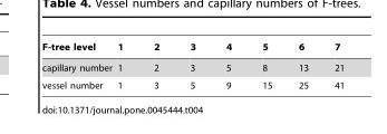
<table><thead><tr><td>F-tree level</td><td>1</td><td>2</td><td>3</td><td>4</td><td>5</td><td>6</td><td>7</td></tr></thead><tbody><tr><td>capillary number</td><td>1</td><td>2</td><td>3</td><td>5</td><td>8</td><td>13</td><td>21</td></tr><tr><td>vessel number</td><td>1</td><td>3</td><td>5</td><td>9</td><td>15</td><td>25</td><td>41</td></tr></tbody></table>